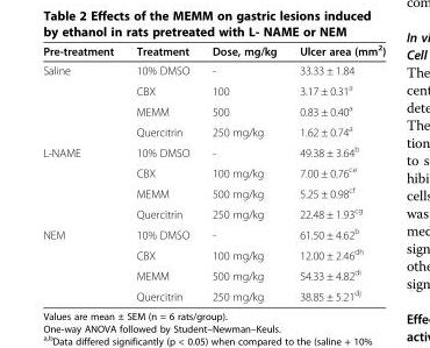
<table><thead><tr><td>Pre-treatment</td><td>Treatment</td><td>Dose, mg/kg</td><td>Ulcer area (mm<sup>2</sup>)</td></tr></thead><tbody><tr><td rowspan="4">Saline</td><td>10% DMSO</td><td>-</td><td>33.33 ± 1.84</td></tr><tr><td>CBX</td><td>100</td><td>3.17 ± 0.31<sup>a</sup></td></tr><tr><td>MEMM</td><td>500</td><td>0.83 ± 0.40<sup>a</sup></td></tr><tr><td>Quercitrin</td><td>250 mg/kg</td><td>1.62 ± 0.74<sup>a</sup></td></tr><tr><td rowspan="4">L-NAME</td><td>10% DMSO</td><td>-</td><td>49.38 ± 3.64<sup>b</sup></td></tr><tr><td>CBX</td><td>100 mg/kg</td><td>7.00 ± 0.76<sup>ce</sup></td></tr><tr><td>MEMM</td><td>500 mg/kg</td><td>5.25 ± 0.98<sup>cf</sup></td></tr><tr><td>Quercitrin</td><td>250 mg/kg</td><td>22.48 ± 1.93<sup>cg</sup></td></tr><tr><td rowspan="4">NEM</td><td>10% DMSO</td><td>-</td><td>61.50 ± 4.62<sup>b</sup></td></tr><tr><td>CBX</td><td>100 mg/kg</td><td>12.00 ± 2.46<sup>dh</sup></td></tr><tr><td>MEMM</td><td>500 mg/kg</td><td>54.33 ± 4.82<sup>di</sup></td></tr><tr><td>Quercitrin</td><td>250 mg/kg</td><td>38.85 ± 5.21<sup>dj</sup></td></tr></tbody></table>